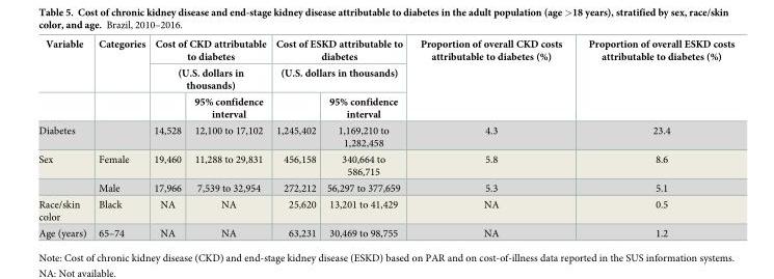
<table><thead><tr><td rowspan="3">Variable</td><td rowspan="3">Categories</td><td rowspan="2" colspan="2">Cost of CKD attributable to diabetes (U.S. dollars in thousands)</td><td rowspan="2" colspan="2">Cost of ESKD attributable to diabetes (U.S. dollars in thousands)</td><td rowspan="3">Proportion of overall CKD costs attributable to diabetes (%)</td><td rowspan="3">Proportion of overall ESKD costs attributable to diabetes (%)</td></tr><tr></tr><tr><td></td><td>95% confidence interval</td><td></td><td>95% confidence interval</td></tr></thead><tbody><tr><td>Diabetes</td><td></td><td>14,528</td><td>12,100 to 17,102</td><td>1,245,402</td><td>1,169,210 to 1,282,458</td><td>4.3</td><td>23.4</td></tr><tr><td rowspan="2">Sex</td><td>Female</td><td>19,460</td><td>11,288 to 29,831</td><td>456,158</td><td>340,664 to 586,715</td><td>5.8</td><td>8.6</td></tr><tr><td>Male</td><td>17,966</td><td>7,539 to 32,954</td><td>272,212</td><td>56,297 to 377,659</td><td>5.3</td><td>5.1</td></tr><tr><td>Race/skin color</td><td>Black</td><td>NA</td><td>NA</td><td>25,620</td><td>13,201 to 41,429</td><td>NA</td><td>0.5</td></tr><tr><td>Age (years)</td><td>65–74</td><td>NA</td><td>NA</td><td>63,231</td><td>30,469 to 98,755</td><td>NA</td><td>1.2</td></tr></tbody></table>